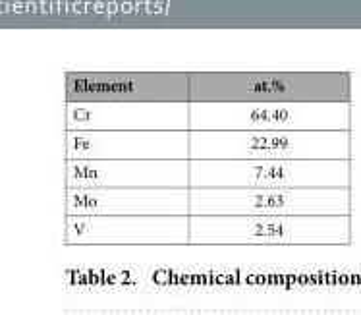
<table><thead><tr><td>Element</td><td>at.%</td></tr></thead><tbody><tr><td>Cr</td><td>64.40</td></tr><tr><td>Fe</td><td>22.99</td></tr><tr><td>Mn</td><td>7.44</td></tr><tr><td>Mo</td><td>2.63</td></tr><tr><td>V</td><td>2.54</td></tr></tbody></table>